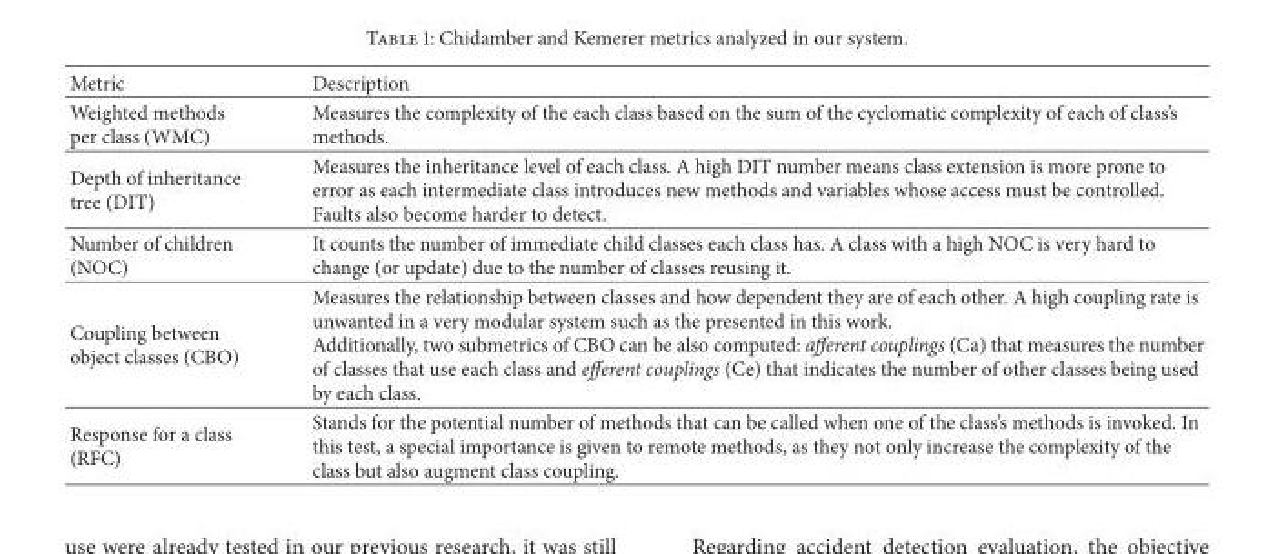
<table><thead><tr><td>Metric</td><td>Description</td></tr></thead><tbody><tr><td>Weighted methods per class (WMC)</td><td>Measures the complexity of the each class based on the sum of the cyclomatic complexity of each of class’s methods.</td></tr><tr><td>Depth of inheritance tree (DIT)</td><td>Measures the inheritance level of each class. A high DIT number means class extension is more prone to error as each intermediate class introduces new methods and variables whose access must be controlled. Faults also become harder to detect.</td></tr><tr><td>Number of children (NOC)</td><td>It counts the number of immediate child classes each class has. A class with a high NOC is very hard to change (or update) due to the number of classes reusing it.</td></tr><tr><td>Coupling between object classes (CBO)</td><td>Measures the relationship between classes and how dependent they are of each other. A high coupling rate is unwanted in a very modular system such as the presented in this work. Additionally, two submetrics of CBO can be also computed: afferent couplings (Ca) that measures the number of classes that use each class and efferent couplings (Ce) that indicates the number of other classes being used by each class.</td></tr><tr><td>Response for a class (RFC)</td><td>Stands for the potential number of methods that can be called when one of the class’s methods is invoked. In this test, a special importance is given to remote methods, as they not only increase the complexity of the class but also augment class coupling.</td></tr></tbody></table>